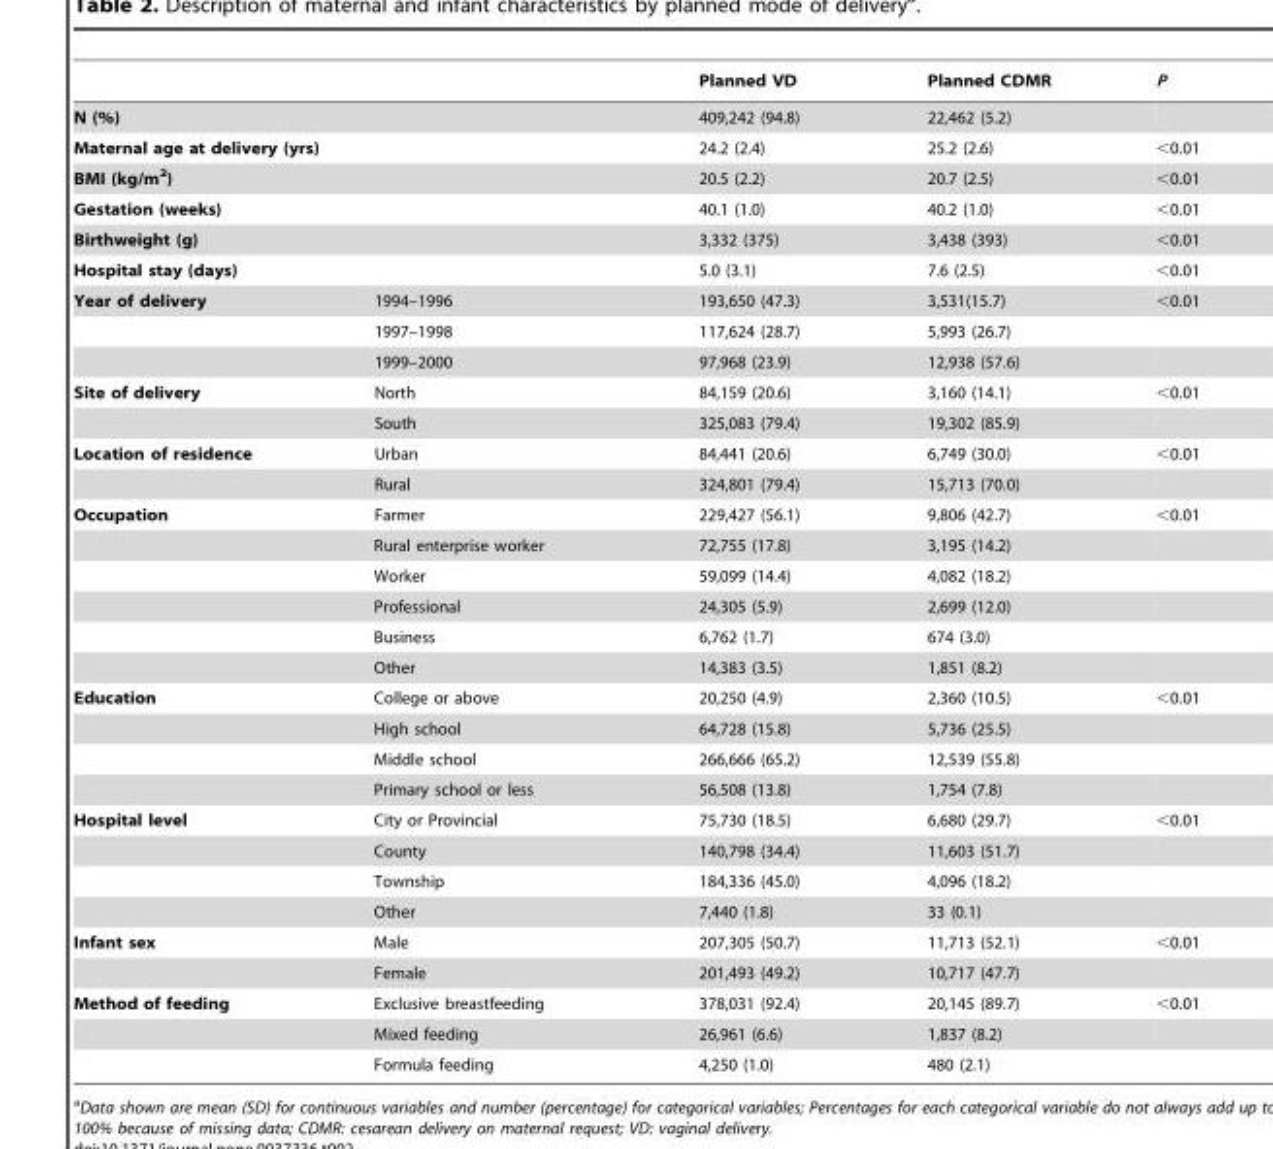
<table><thead><tr><td></td><td></td><td>Planned VD</td><td>Planned CDMR</td><td>P</td></tr></thead><tbody><tr><td colspan="2">N (%)</td><td>409,242 (94.8)</td><td>22,462 (5.2)</td><td></td></tr><tr><td colspan="2">Maternal age at delivery (yrs)</td><td>24.2 (2.4)</td><td>25.2 (2.6)</td><td>&lt;0.01</td></tr><tr><td colspan="2">BMI (kg/m<sup>2</sup>)</td><td>20.5 (2.2)</td><td>20.7 (2.5)</td><td>&lt;0.01</td></tr><tr><td colspan="2">Gestation (weeks)</td><td>40.1 (1.0)</td><td>40.2 (1.0)</td><td>&lt;0.01</td></tr><tr><td colspan="2">Birthweight (g)</td><td>3,332 (375)</td><td>3,438 (393)</td><td>&lt;0.01</td></tr><tr><td colspan="2">Hospital stay (days)</td><td>5.0 (3.1)</td><td>7.6 (2.5)</td><td>&lt;0.01</td></tr><tr><td rowspan="3">Year of delivery</td><td>1994–1996</td><td>193,650 (47.3)</td><td>3,531(15.7)</td><td>&lt;0.01</td></tr><tr><td>1997–1998</td><td>117,624 (28.7)</td><td>5,993 (26.7)</td><td></td></tr><tr><td>1999–2000</td><td>97,968 (23.9)</td><td>12,938 (57.6)</td><td></td></tr><tr><td rowspan="2">Site of delivery</td><td>North</td><td>84,159 (20.6)</td><td>3,160 (14.1)</td><td>&lt;0.01</td></tr><tr><td>South</td><td>325,083 (79.4)</td><td>19,302 (85.9)</td><td></td></tr><tr><td rowspan="2">Location of residence</td><td>Urban</td><td>84,441 (20.6)</td><td>6,749 (30.0)</td><td>&lt;0.01</td></tr><tr><td>Rural</td><td>324,801 (79.4)</td><td>15,713 (70.0)</td><td></td></tr><tr><td rowspan="6">Occupation</td><td>Farmer</td><td>229,427 (56.1)</td><td>9,806 (42.7)</td><td>&lt;0.01</td></tr><tr><td>Rural enterprise worker</td><td>72,755 (17.8)</td><td>3,195 (14.2)</td><td></td></tr><tr><td>Worker</td><td>59,099 (14.4)</td><td>4,082 (18.2)</td><td></td></tr><tr><td>Professional</td><td>24,305 (5.9)</td><td>2,699 (12.0)</td><td></td></tr><tr><td>Business</td><td>6,762 (1.7)</td><td>674 (3.0)</td><td></td></tr><tr><td>Other</td><td>14,383 (3.5)</td><td>1,851 (8.2)</td><td></td></tr><tr><td rowspan="4">Education</td><td>College or above</td><td>20,250 (4.9)</td><td>2,360 (10.5)</td><td>&lt;0.01</td></tr><tr><td>High school</td><td>64,728 (15.8)</td><td>5,736 (25.5)</td><td></td></tr><tr><td>Middle school</td><td>266,666 (65.2)</td><td>12,539 (55.8)</td><td></td></tr><tr><td>Primary school or less</td><td>56,508 (13.8)</td><td>1,754 (7.8)</td><td></td></tr><tr><td rowspan="4">Hospital level</td><td>City or Provincial</td><td>75,730 (18.5)</td><td>6,680 (29.7)</td><td>&lt;0.01</td></tr><tr><td>County</td><td>140,798 (34.4)</td><td>11,603 (51.7)</td><td></td></tr><tr><td>Township</td><td>184,336 (45.0)</td><td>4,096 (18.2)</td><td></td></tr><tr><td>Other</td><td>7,440 (1.8)</td><td>33 (0.1)</td><td></td></tr><tr><td rowspan="2">Infant sex</td><td>Male</td><td>207,305 (50.7)</td><td>11,713 (52.1)</td><td>&lt;0.01</td></tr><tr><td>Female</td><td>201,493 (49.2)</td><td>10,717 (47.7)</td><td></td></tr><tr><td rowspan="3">Method of feeding</td><td>Exclusive breastfeeding</td><td>378,031 (92.4)</td><td>20,145 (89.7)</td><td>&lt;0.01</td></tr><tr><td>Mixed feeding</td><td>26,961 (6.6)</td><td>1,837 (8.2)</td><td></td></tr><tr><td>Formula feeding</td><td>4,250 (1.0)</td><td>480 (2.1)</td><td></td></tr></tbody></table>